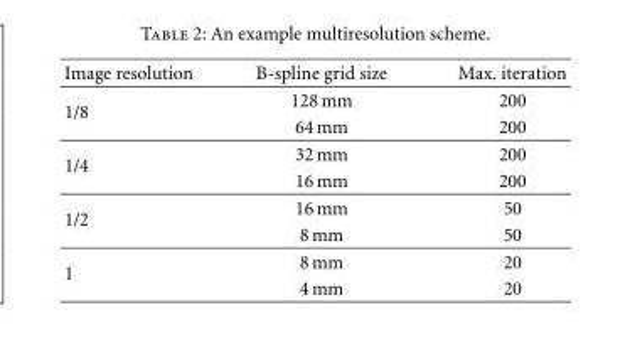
<table><thead><tr><td>Image resolution</td><td>B-spline grid size</td><td>Max. iteration</td></tr></thead><tbody><tr><td rowspan="2">1/8</td><td>128 mm</td><td>200</td></tr><tr><td>64 mm</td><td>200</td></tr><tr><td rowspan="2">1/4</td><td>32 mm</td><td>200</td></tr><tr><td>16 mm</td><td>200</td></tr><tr><td rowspan="2">1/2</td><td>16 mm</td><td>50</td></tr><tr><td>8 mm</td><td>50</td></tr><tr><td rowspan="2">1</td><td>8 mm</td><td>20</td></tr><tr><td>4 mm</td><td>20</td></tr></tbody></table>